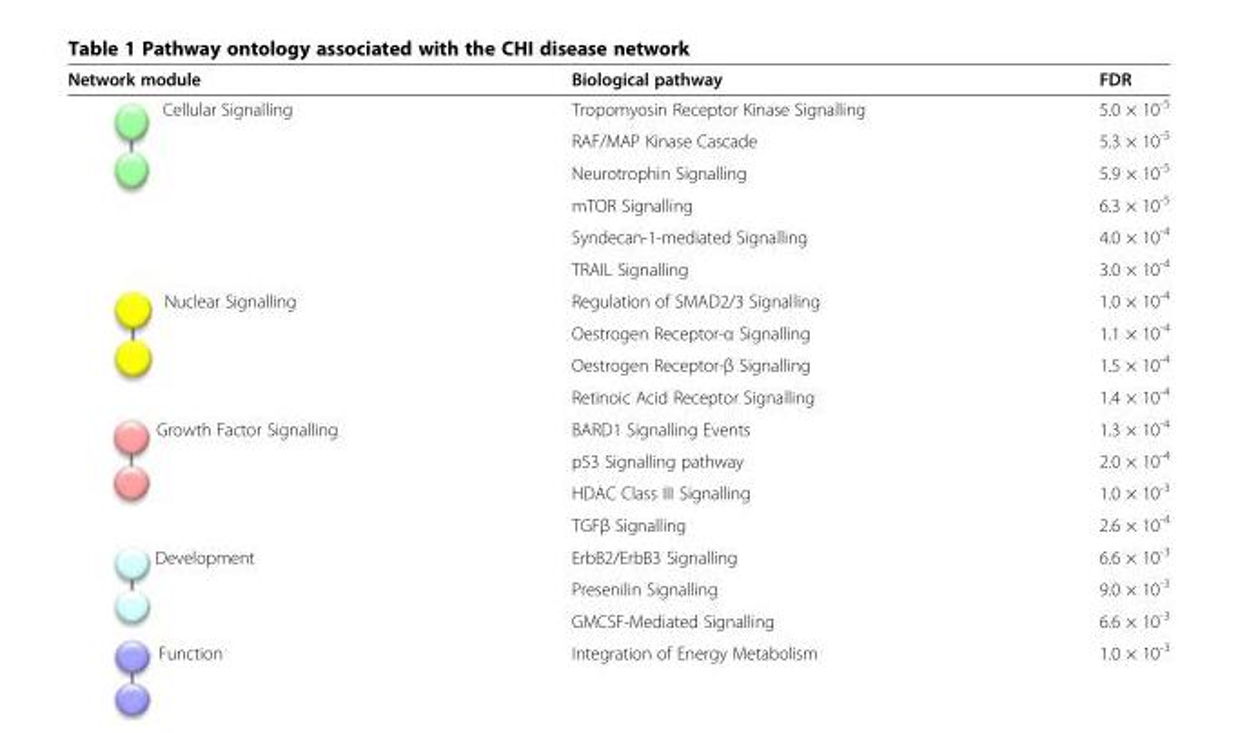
<table><thead><tr><td>Network module</td><td>Biological pathway</td><td>FDR</td></tr></thead><tbody><tr><td rowspan="6">Cellular Signalling</td><td>Tropomyosin Receptor Kinase Signalling</td><td>5.0 × 10<sup>-5</sup></td></tr><tr><td>RAF/MAP Kinase Cascade</td><td>5.3 × 10<sup>-5</sup></td></tr><tr><td>Neurotrophin Signalling</td><td>5.9 × 10<sup>-5</sup></td></tr><tr><td>mTOR Signalling</td><td>6.3 × 10<sup>-5</sup></td></tr><tr><td>Syndecan-1-mediated Signalling</td><td>4.0 × 10<sup>-4</sup></td></tr><tr><td>TRAIL Signalling</td><td>3.0 × 10<sup>-4</sup></td></tr><tr><td rowspan="4">Nuclear Signalling</td><td>Regulation of SMAD2/3 Signalling</td><td>1.0 × 10<sup>-4</sup></td></tr><tr><td>Oestrogen Receptor-α Signalling</td><td>1.1 × 10<sup>-4</sup></td></tr><tr><td>Oestrogen Receptor-β Signalling</td><td>1.5 × 10<sup>-4</sup></td></tr><tr><td>Retinoic Acid Receptor Signalling</td><td>1.4 × 10<sup>-4</sup></td></tr><tr><td rowspan="4">Growth Factor Signalling</td><td>BARD1 Signalling Events</td><td>1.3 × 10<sup>-4</sup></td></tr><tr><td>p53 Signalling pathway</td><td>2.0 × 10<sup>-4</sup></td></tr><tr><td>HDAC Class III Signalling</td><td>1.0 × 10<sup>-3</sup></td></tr><tr><td>TGFβ Signalling</td><td>2.6 × 10<sup>-4</sup></td></tr><tr><td rowspan="3">Development</td><td>ErbB2/ErbB3 Signalling</td><td>6.6 × 10<sup>-3</sup></td></tr><tr><td>Presenilin Signalling</td><td>9.0 × 10<sup>-3</sup></td></tr><tr><td>GMCSF-Mediated Signalling</td><td>6.6 × 10<sup>-3</sup></td></tr><tr><td>Function</td><td>Integration of Energy Metabolism</td><td>1.0 × 10<sup>-3</sup></td></tr></tbody></table>